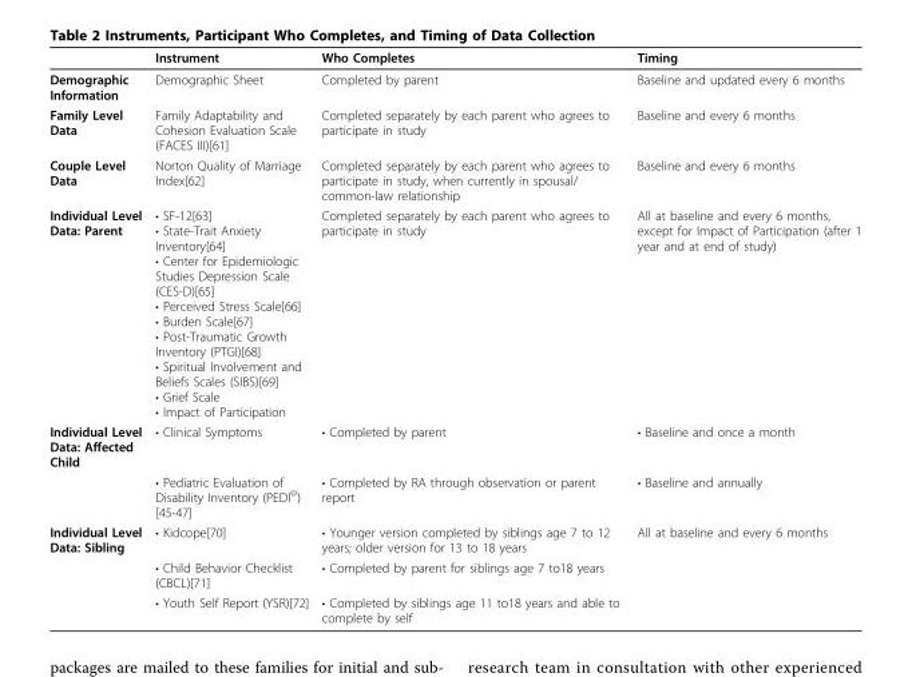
<table><thead><tr><td></td><td>Instrument</td><td>Who Completes</td><td>Timing</td></tr></thead><tbody><tr><td>Demographic Information</td><td>Demographic Sheet</td><td>Completed by parent</td><td>Baseline and updated every 6 months</td></tr><tr><td>Family Level Data</td><td>Family Adaptability and Cohesion Evaluation Scale (FACES III)[61]</td><td>Completed separately by each parent who agrees to participate in study</td><td>Baseline and every 6 months</td></tr><tr><td>Couple Level Data</td><td>Norton Quality of Marriage Index[62]</td><td>Completed separately by each parent who agrees to participate in study, when currently in spousal/ common-law relationship</td><td>Baseline and every 6 months</td></tr><tr><td>Individual Level Data: Parent</td><td>• SF-12[63] • State-Trait Anxiety Inventory[64] • Center for Epidemiologic Studies Depression Scale (CES-D)[65] • Perceived Stress Scale[66] • Burden Scale[67] • Post-Traumatic Growth Inventory (PTGI)[68] • Spiritual Involvement and Beliefs Scales (SIBS)[69] • Grief Scale • Impact of Participation</td><td>Completed separately by each parent who agrees to participate in study</td><td>All at baseline and every 6 months, except for Impact of Participation (after 1 year and at end of study)</td></tr><tr><td rowspan="2">Individual Level Data: Affected Child</td><td>• Clinical Symptoms</td><td>• Completed by parent</td><td>• Baseline and once a month</td></tr><tr><td>• Pediatric Evaluation of Disability Inventory (PEDI<sup>©</sup>) [45-47]</td><td>• Completed by RA through observation or parent report</td><td>• Baseline and annually</td></tr><tr><td rowspan="3">Individual Level Data: Sibling</td><td>• Kidcope[70]</td><td>• Younger version completed by siblings age 7 to 12 years; older version for 13 to 18 years</td><td>All at baseline and every 6 months</td></tr><tr><td>• Child Behavior Checklist (CBCL)[71]</td><td>• Completed by parent for siblings age 7 to18 years</td><td></td></tr><tr><td>• Youth Self Report (YSR)[72]</td><td>• Completed by siblings age 11 to18 years and able to complete by self</td><td></td></tr></tbody></table>